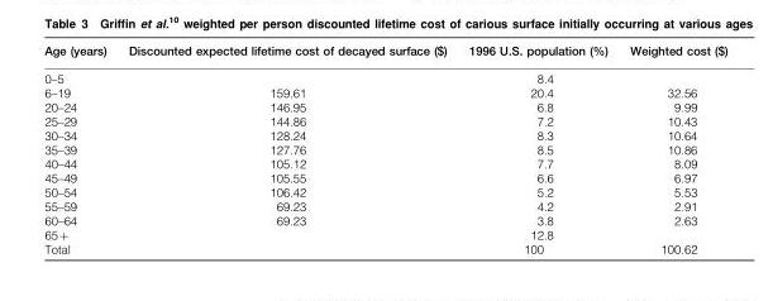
<table><thead><tr><td>Age (years)</td><td>Discounted expected lifetime cost of decayed surface ($)</td><td>1996 U.S. population (%)</td><td>Weighted cost ($)</td></tr></thead><tbody><tr><td>0–5</td><td></td><td>8.4</td><td></td></tr><tr><td>6–19</td><td>159.61</td><td>20.4</td><td>32.56</td></tr><tr><td>20–24</td><td>146.95</td><td>6.8</td><td>9.99</td></tr><tr><td>25–29</td><td>144.86</td><td>7.2</td><td>10.43</td></tr><tr><td>30–34</td><td>128.24</td><td>8.3</td><td>10.64</td></tr><tr><td>35–39</td><td>127.76</td><td>8.5</td><td>10.86</td></tr><tr><td>40–44</td><td>105.12</td><td>7.7</td><td>8.09</td></tr><tr><td>45–49</td><td>105.55</td><td>6.6</td><td>6.97</td></tr><tr><td>50–54</td><td>106.42</td><td>5.2</td><td>5.53</td></tr><tr><td>55–59</td><td>69.23</td><td>4.2</td><td>2.91</td></tr><tr><td>60–64</td><td>69.23</td><td>3.8</td><td>2.63</td></tr><tr><td>65+</td><td></td><td>12.8</td><td></td></tr><tr><td>Total</td><td></td><td>100</td><td>100.62</td></tr></tbody></table>